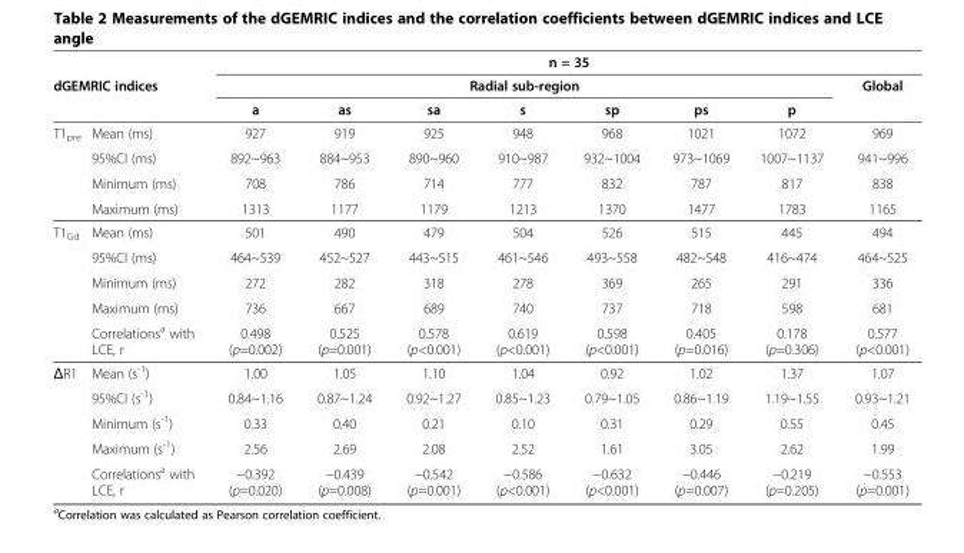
<table><thead><tr><td></td><td></td><td colspan="8">n = 35</td></tr><tr><td rowspan="2" colspan="2">dGEMRIC indices</td><td colspan="7">Radial sub-region</td><td rowspan="2">Global</td></tr><tr><td>a</td><td>as</td><td>sa</td><td>s</td><td>sp</td><td>ps</td><td>p</td></tr></thead><tbody><tr><td rowspan="4">T1<sub>pre</sub></td><td>Mean (ms)</td><td>927</td><td>919</td><td>925</td><td>948</td><td>968</td><td>1021</td><td>1072</td><td>969</td></tr><tr><td>95%CI (ms)</td><td>892~963</td><td>884~953</td><td>890~960</td><td>910~987</td><td>932~1004</td><td>973~1069</td><td>1007~1137</td><td>941~996</td></tr><tr><td>Minimum (ms)</td><td>708</td><td>786</td><td>714</td><td>777</td><td>832</td><td>787</td><td>817</td><td>838</td></tr><tr><td>Maximum (ms)</td><td>1313</td><td>1177</td><td>1179</td><td>1213</td><td>1370</td><td>1477</td><td>1783</td><td>1165</td></tr><tr><td rowspan="5">T1<sub>Gd</sub></td><td>Mean (ms)</td><td>501</td><td>490</td><td>479</td><td>504</td><td>526</td><td>515</td><td>445</td><td>494</td></tr><tr><td>95%CI (ms)</td><td>464~539</td><td>452~527</td><td>443~515</td><td>461~546</td><td>493~558</td><td>482~548</td><td>416~474</td><td>464~525</td></tr><tr><td>Minimum (ms)</td><td>272</td><td>282</td><td>318</td><td>278</td><td>369</td><td>265</td><td>291</td><td>336</td></tr><tr><td>Maximum (ms)</td><td>736</td><td>667</td><td>689</td><td>740</td><td>737</td><td>718</td><td>598</td><td>681</td></tr><tr><td>Correlations<sup>a</sup> with LCE, r</td><td>0.498 (p=0.002)</td><td>0.525 (p=0.001)</td><td>0.578 (p&lt;0.001)</td><td>0.619 (p&lt;0.001)</td><td>0.598 (p&lt;0.001)</td><td>0.405 (p=0.016)</td><td>0.178 (p=0.306)</td><td>0.577 (p&lt;0.001)</td></tr><tr><td rowspan="5">ΔR1</td><td>Mean (s<sup>-1</sup>)</td><td>1.00</td><td>1.05</td><td>1.10</td><td>1.04</td><td>0.92</td><td>1.02</td><td>1.37</td><td>1.07</td></tr><tr><td>95%CI (s<sup>-1</sup>)</td><td>0.84~1.16</td><td>0.87~1.24</td><td>0.92~1.27</td><td>0.85~1.23</td><td>0.79~1.05</td><td>0.86~1.19</td><td>1.19~1.55</td><td>0.93~1.21</td></tr><tr><td>Minimum (s<sup>-1</sup>)</td><td>0.33</td><td>0.40</td><td>0.21</td><td>0.10</td><td>0.31</td><td>0.29</td><td>0.55</td><td>0.45</td></tr><tr><td>Maximum (s<sup>-1</sup>)</td><td>2.56</td><td>2.69</td><td>2.08</td><td>2.52</td><td>1.61</td><td>3.05</td><td>2.62</td><td>1.99</td></tr><tr><td>Correlations<sup>a</sup> with LCE, r</td><td>−0.392 (p=0.020)</td><td>−0.439 (p=0.008)</td><td>−0.542 (p=0.001)</td><td>−0.586 (p&lt;0.001)</td><td>−0.632 (p&lt;0.001)</td><td>−0.446 (p=0.007)</td><td>−0.219 (p=0.205)</td><td>−0.553 (p=0.001)</td></tr></tbody></table>